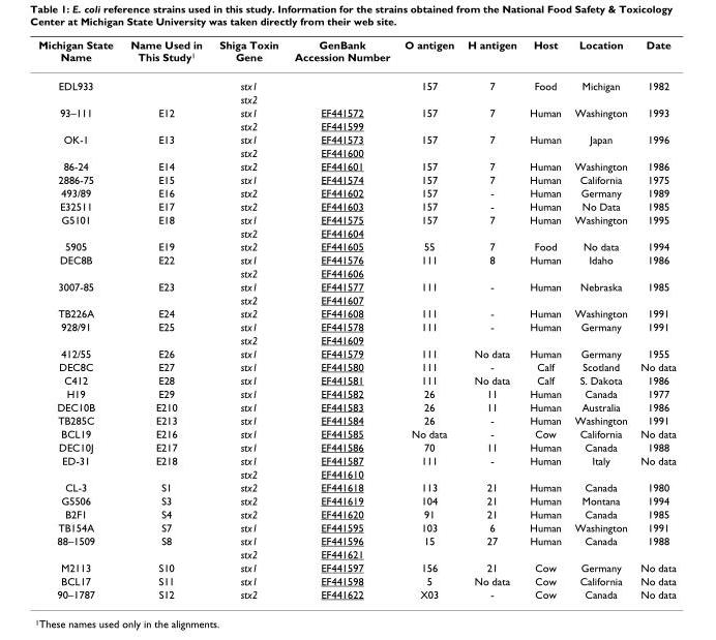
<table><thead><tr><td>Michigan State Name</td><td>Name Used in This Study<sup>1</sup></td><td>Shiga Toxin Gene</td><td>GenBank Accession Number</td><td>O antigen</td><td>H antigen</td><td>Host</td><td>Location</td><td>Date</td></tr></thead><tbody><tr><td rowspan="2">EDL933</td><td></td><td>stx1</td><td></td><td>157</td><td>7</td><td>Food</td><td>Michigan</td><td>1982</td></tr><tr><td></td><td>stx2</td><td></td><td></td><td></td><td></td><td></td><td></td></tr><tr><td rowspan="2">93–111</td><td>E12</td><td>stx1</td><td>EF441572</td><td>157</td><td>7</td><td>Human</td><td>Washington</td><td>1993</td></tr><tr><td></td><td>stx2</td><td>EF441599</td><td></td><td></td><td></td><td></td><td></td></tr><tr><td rowspan="2">OK-1</td><td>E13</td><td>stx1</td><td>EF441573</td><td>157</td><td>7</td><td>Human</td><td>Japan</td><td>1996</td></tr><tr><td></td><td>stx2</td><td>EF441600</td><td></td><td></td><td></td><td></td><td></td></tr><tr><td>86-24</td><td>E14</td><td>stx2</td><td>EF441601</td><td>157</td><td>7</td><td>Human</td><td>Washington</td><td>1986</td></tr><tr><td>2886-75</td><td>E15</td><td>stx1</td><td>EF441574</td><td>157</td><td>7</td><td>Human</td><td>California</td><td>1975</td></tr><tr><td>493/89</td><td>E16</td><td>stx2</td><td>EF441602</td><td>157</td><td>-</td><td>Human</td><td>Germany</td><td>1989</td></tr><tr><td>E32511</td><td>E17</td><td>stx2</td><td>EF441603</td><td>157</td><td>-</td><td>Human</td><td>No Data</td><td>1985</td></tr><tr><td rowspan="2">G5101</td><td>E18</td><td>stx1</td><td>EF441575</td><td>157</td><td>7</td><td>Human</td><td>Washington</td><td>1995</td></tr><tr><td></td><td>stx2</td><td>EF441604</td><td></td><td></td><td></td><td></td><td></td></tr><tr><td>5905</td><td>E19</td><td>stx2</td><td>EF441605</td><td>55</td><td>7</td><td>Food</td><td>No data</td><td>1994</td></tr><tr><td rowspan="2">DEC8B</td><td>E22</td><td>stx1</td><td>EF441576</td><td>111</td><td>8</td><td>Human</td><td>Idaho</td><td>1986</td></tr><tr><td></td><td>stx2</td><td>EF441606</td><td></td><td></td><td></td><td></td><td></td></tr><tr><td rowspan="2">3007-85</td><td>E23</td><td>stx1</td><td>EF441577</td><td>111</td><td>-</td><td>Human</td><td>Nebraska</td><td>1985</td></tr><tr><td></td><td>stx2</td><td>EF441607</td><td></td><td></td><td></td><td></td><td></td></tr><tr><td>TB226A</td><td>E24</td><td>stx2</td><td>EF441608</td><td>111</td><td>-</td><td>Human</td><td>Washington</td><td>1991</td></tr><tr><td rowspan="2">928/91</td><td>E25</td><td>stx1</td><td>EF441578</td><td>111</td><td>-</td><td>Human</td><td>Germany</td><td>1991</td></tr><tr><td></td><td>stx2</td><td>EF441609</td><td></td><td></td><td></td><td></td><td></td></tr><tr><td>412/55</td><td>E26</td><td>stx1</td><td>EF441579</td><td>111</td><td>No data</td><td>Human</td><td>Germany</td><td>1955</td></tr><tr><td>DEC8C</td><td>E27</td><td>stx1</td><td>EF441580</td><td>111</td><td>-</td><td>Calf</td><td>Scotland</td><td>No data</td></tr><tr><td>C412</td><td>E28</td><td>stx1</td><td>EF441581</td><td>111</td><td>No data</td><td>Calf</td><td>S. Dakota</td><td>1986</td></tr><tr><td>H19</td><td>E29</td><td>stx1</td><td>EF441582</td><td>26</td><td>11</td><td>Human</td><td>Canada</td><td>1977</td></tr><tr><td>DEC10B</td><td>E210</td><td>stx1</td><td>EF441583</td><td>26</td><td>11</td><td>Human</td><td>Australia</td><td>1986</td></tr><tr><td>TB285C</td><td>E213</td><td>stx1</td><td>EF441584</td><td>26</td><td>-</td><td>Human</td><td>Washington</td><td>1991</td></tr><tr><td>BCL19</td><td>E216</td><td>stx1</td><td>EF441585</td><td>No data</td><td>-</td><td>Cow</td><td>California</td><td>No data</td></tr><tr><td>DEC10J</td><td>E217</td><td>stx1</td><td>EF441586</td><td>70</td><td>11</td><td>Human</td><td>Canada</td><td>1988</td></tr><tr><td rowspan="2">ED-31</td><td>E218</td><td>stx1</td><td>EF441587</td><td>111</td><td>-</td><td>Human</td><td>Italy</td><td>No data</td></tr><tr><td></td><td>stx2</td><td>EF441610</td><td></td><td></td><td></td><td></td><td></td></tr><tr><td>CL-3</td><td>S1</td><td>stx2</td><td>EF441618</td><td>113</td><td>21</td><td>Human</td><td>Canada</td><td>1980</td></tr><tr><td>G5506</td><td>S3</td><td>stx2</td><td>EF441619</td><td>104</td><td>21</td><td>Human</td><td>Montana</td><td>1994</td></tr><tr><td>B2F1</td><td>S4</td><td>stx2</td><td>EF441620</td><td>91</td><td>21</td><td>Human</td><td>Canada</td><td>1985</td></tr><tr><td>TB154A</td><td>S7</td><td>stx1</td><td>EF441595</td><td>103</td><td>6</td><td>Human</td><td>Washington</td><td>1991</td></tr><tr><td rowspan="2">88–1509</td><td>S8</td><td>stx1</td><td>EF441596</td><td>15</td><td>27</td><td>Human</td><td>Canada</td><td>1988</td></tr><tr><td></td><td>stx2</td><td>EF441621</td><td></td><td></td><td></td><td></td><td></td></tr><tr><td>M2113</td><td>S10</td><td>stx1</td><td>EF441597</td><td>156</td><td>21</td><td>Cow</td><td>Germany</td><td>No data</td></tr><tr><td>BCL17</td><td>S11</td><td>stx1</td><td>EF441598</td><td>5</td><td>No data</td><td>Cow</td><td>California</td><td>No data</td></tr><tr><td>90–1787</td><td>S12</td><td>stx2</td><td>EF441622</td><td>X03</td><td>-</td><td>Cow</td><td>Canada</td><td>No data</td></tr></tbody></table>